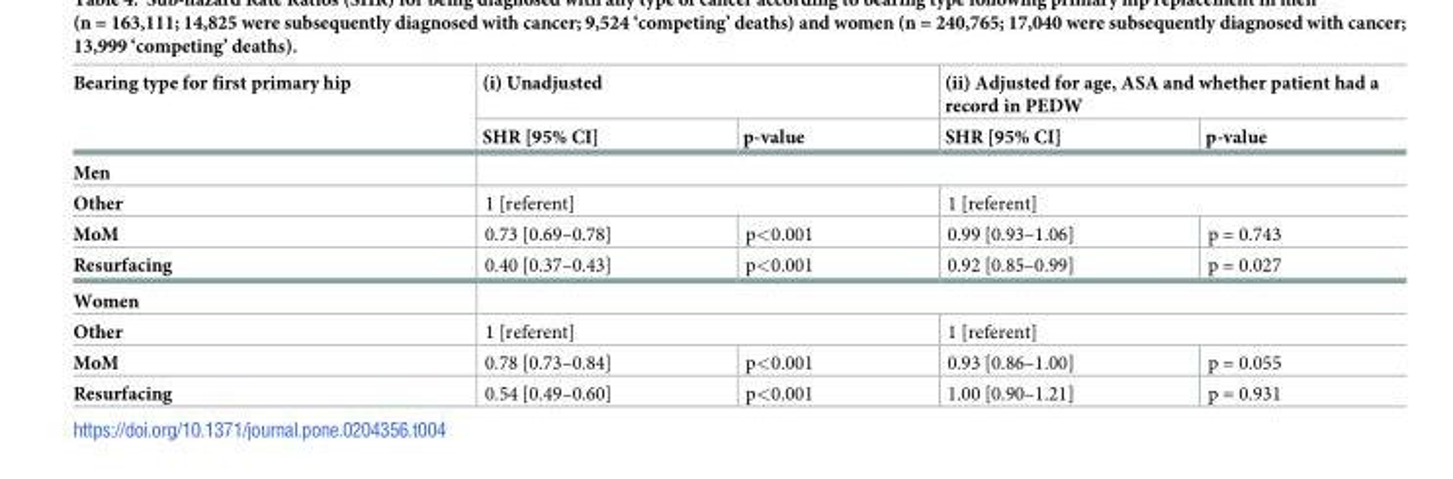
<table><thead><tr><td rowspan="2">Bearing type for first primary hip</td><td colspan="2">(i) Unadjusted</td><td colspan="2">(ii) Adjusted for age, ASA and whether patient had a record in PEDW</td></tr><tr><td>SHR [95% CI]</td><td>p-value</td><td>SHR [95% CI]</td><td>p-value</td></tr></thead><tbody><tr><td colspan="5">Men</td></tr><tr><td>Other</td><td colspan="2">1 [referent]</td><td colspan="2">1 [referent]</td></tr><tr><td>MoM</td><td>0.73 [0.69–0.78]</td><td>p&lt;0.001</td><td>0.99 [0.93–1.06]</td><td>p = 0.743</td></tr><tr><td>Resurfacing</td><td>0.40 [0.37–0.43]</td><td>p&lt;0.001</td><td>0.92 [0.85–0.99]</td><td>p = 0.027</td></tr><tr><td colspan="5">Women</td></tr><tr><td>Other</td><td colspan="2">1 [referent]</td><td colspan="2">1 [referent]</td></tr><tr><td>MoM</td><td>0.78 [0.73–0.84]</td><td>p&lt;0.001</td><td>0.93 [0.86–1.00]</td><td>p = 0.055</td></tr><tr><td>Resurfacing</td><td>0.54 [0.49–0.60]</td><td>p&lt;0.001</td><td>1.00 [0.90–1.21]</td><td>p = 0.931</td></tr></tbody></table>